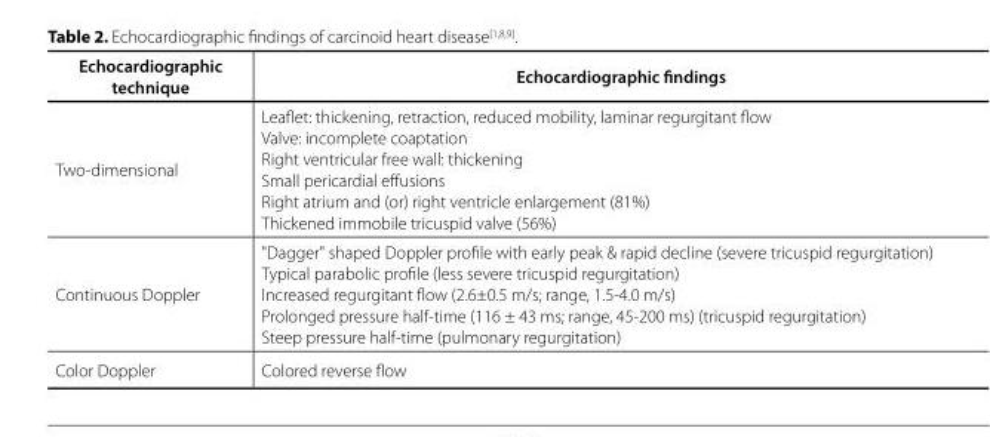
<table><thead><tr><td>Echocardiographic technique</td><td>Echocardiographic findings</td></tr></thead><tbody><tr><td></td><td>Leaflet: thickening, retraction, reduced mobility, laminar regurgitant flow</td></tr><tr><td></td><td>Valve: incomplete coaptation</td></tr><tr><td rowspan="5">Two-dimensional</td><td>Right ventricular free wall: thickening Small pericardial effusions</td></tr><tr><td>Right atrium and (or) right ventricle enlargement (81%)</td></tr><tr><td>Thickened immobile tricuspid valve (56%)</td></tr><tr><td>&quot;Dagger&quot; shaped Doppler profile with early peak &amp; rapid decline (severe tricuspid regurgitation)</td></tr><tr><td>Typical parabolic profile (less severe tricuspid regurgitation)</td></tr><tr><td rowspan="3">Continuous Doppler</td><td>Increased regurgitant flow (2.6±0.5 m/s; range, 1.5-4.0 m/s)</td></tr><tr><td>Prolonged pressure half-time (116 ± 43 ms; range, 45-200 ms) (tricuspid regurgitation)</td></tr><tr><td>Steep pressure half-time (pulmonary regurgitation)</td></tr><tr><td>Color Doppler</td><td>Colored reverse flow</td></tr></tbody></table>